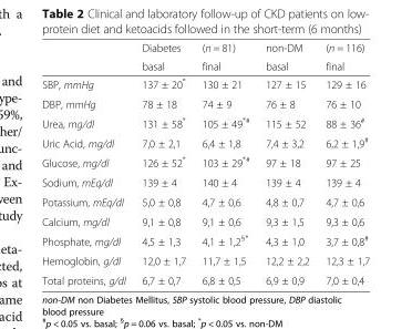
<table><thead><tr><td rowspan="2"></td><td rowspan="2">Diabetes basal</td><td rowspan="2">(n = 81) final</td><td rowspan="2">non-DM basal</td><td rowspan="2">(n = 116) final</td></tr><tr></tr></thead><tbody><tr><td>SBP, mmHg</td><td>137 ± 20*</td><td>130 ± 21</td><td>127 ± 15</td><td>129 ± 16</td></tr><tr><td>DBP, mmHg</td><td>78 ± 18</td><td>74 ± 9</td><td>76 ± 8</td><td>76 ± 10</td></tr><tr><td>Urea, mg/dl</td><td>131 ± 58*</td><td>105 ± 49<sup>*#</sup></td><td>115 ± 52</td><td>88 ± 36<sup>#</sup></td></tr><tr><td>Uric Acid, mg/dl</td><td>7,0 ± 2,1</td><td>6,4 ± 1,8</td><td>7,4 ± 3,2</td><td>6,2 ± 1,9<sup>#</sup></td></tr><tr><td>Glucose, mg/dl</td><td>126 ± 52*</td><td>103 ± 29<sup>*#</sup></td><td>97 ± 18</td><td>97 ± 25</td></tr><tr><td>Sodium, mEq/dl</td><td>139 ± 4</td><td>140 ± 4</td><td>139 ± 4</td><td>139 ± 4</td></tr><tr><td>Potassium, mEq/dl</td><td>5,0 ± 0,8</td><td>4,7 ± 0,6</td><td>4,8 ± 0,7</td><td>4,7 ± 0,6</td></tr><tr><td>Calcium, mg/dl</td><td>9,1 ± 0,8</td><td>9,1 ± 0,6</td><td>9,3 ± 1,5</td><td>9,3 ± 0,6</td></tr><tr><td>Phosphate, mg/dl</td><td>4,5 ± 1,3</td><td>4,1 ± 1,2<sup>§*</sup></td><td>4,3 ± 1,0</td><td>3,7 ± 0,8<sup>#</sup></td></tr><tr><td>Hemoglobin, g/dl</td><td>12,0 ± 1,7</td><td>11,7 ± 1,5</td><td>12,2 ± 2,2</td><td>12,3 ± 1,7</td></tr><tr><td>Total proteins, g/dl</td><td>6,7 ± 0,7</td><td>6,8 ± 0,5</td><td>6,9 ± 0,9</td><td>7,0 ± 0,4</td></tr></tbody></table>